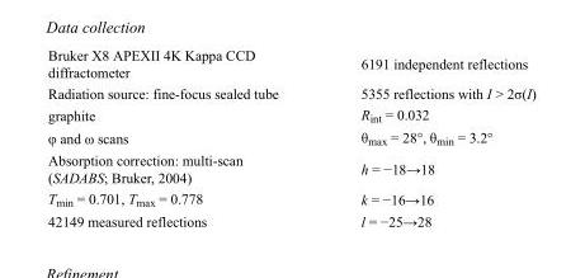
<table><tbody><tr><td>Bruker X8 APEXII 4K Kappa CCD diffractometer</td><td>6191 independent reflections</td></tr><tr><td>Radiation source: fine-focus sealed tube</td><td>5355 reflections with I &gt; 2σ(I)</td></tr><tr><td>graphite</td><td>R<sub>int</sub> = 0.032</td></tr><tr><td>φ and ω scans</td><td>θ<sub>max</sub> = 28°, θ<sub>min</sub> = 3.2°</td></tr><tr><td>Absorption correction: multi-scan (SADABS; Bruker, 2004)</td><td>h = −18→18</td></tr><tr><td>T<sub>min</sub> = 0.701, T<sub>max</sub> = 0.778</td><td>k = −16→16</td></tr><tr><td>42149 measured reflections</td><td>l = −25→28</td></tr></tbody></table>